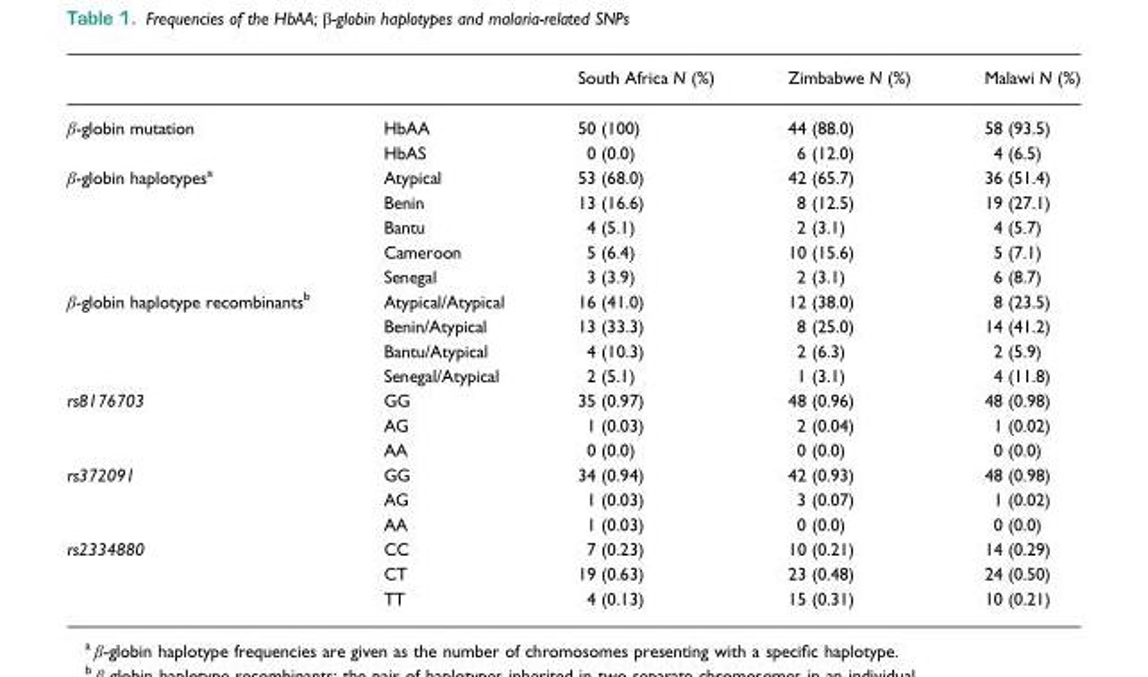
<table><thead><tr><td></td><td></td><td>South Africa N (%)</td><td>Zimbabwe N (%)</td><td>Malawi N (%)</td></tr></thead><tbody><tr><td rowspan="2">β-globin mutation</td><td>HbAA</td><td>50 (100)</td><td>44 (88.0)</td><td>58 (93.5)</td></tr><tr><td>HbAS</td><td>0 (0.0)</td><td>6 (12.0)</td><td>4 (6.5)</td></tr><tr><td rowspan="5">β-globin haplotypes<sup>a</sup></td><td>Atypical</td><td>53 (68.0)</td><td>42 (65.7)</td><td>36 (51.4)</td></tr><tr><td>Benin</td><td>13 (16.6)</td><td>8 (12.5)</td><td>19 (27.1)</td></tr><tr><td>Bantu</td><td>4 (5.1)</td><td>2 (3.1)</td><td>4 (5.7)</td></tr><tr><td>Cameroon</td><td>5 (6.4)</td><td>10 (15.6)</td><td>5 (7.1)</td></tr><tr><td>Senegal</td><td>3 (3.9)</td><td>2 (3.1)</td><td>6 (8.7)</td></tr><tr><td rowspan="4">β-globin haplotype recombinants<sup>b</sup></td><td>Atypical/Atypical</td><td>16 (41.0)</td><td>12 (38.0)</td><td>8 (23.5)</td></tr><tr><td>Benin/Atypical</td><td>13 (33.3)</td><td>8 (25.0)</td><td>14 (41.2)</td></tr><tr><td>Bantu/Atypical</td><td>4 (10.3)</td><td>2 (6.3)</td><td>2 (5.9)</td></tr><tr><td>Senegal/Atypical</td><td>2 (5.1)</td><td>1 (3.1)</td><td>4 (11.8)</td></tr><tr><td rowspan="3">rs8176703</td><td>GG</td><td>35 (0.97)</td><td>48 (0.96)</td><td>48 (0.98)</td></tr><tr><td>AG</td><td>1 (0.03)</td><td>2 (0.04)</td><td>1 (0.02)</td></tr><tr><td>AA</td><td>0 (0.0)</td><td>0 (0.0)</td><td>0 (0.0)</td></tr><tr><td rowspan="3">rs372091</td><td>GG</td><td>34 (0.94)</td><td>42 (0.93)</td><td>48 (0.98)</td></tr><tr><td>AG</td><td>1 (0.03)</td><td>3 (0.07)</td><td>1 (0.02)</td></tr><tr><td>AA</td><td>1 (0.03)</td><td>0 (0.0)</td><td>0 (0.0)</td></tr><tr><td rowspan="3">rs2334880</td><td>CC</td><td>7 (0.23)</td><td>10 (0.21)</td><td>14 (0.29)</td></tr><tr><td>CT</td><td>19 (0.63)</td><td>23 (0.48)</td><td>24 (0.50)</td></tr><tr><td>TT</td><td>4 (0.13)</td><td>15 (0.31)</td><td>10 (0.21)</td></tr></tbody></table>